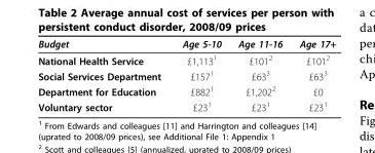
<table><thead><tr><td>Budget</td><td>Age 5-10</td><td>Age 11-16</td><td>Age 17+</td></tr></thead><tbody><tr><td>National Health Service</td><td>£1,113<sup>1</sup></td><td>£101<sup>2</sup></td><td>£101<sup>2</sup></td></tr><tr><td>Social Services Department</td><td>£157<sup>1</sup></td><td>£63<sup>3</sup></td><td>£63<sup>3</sup></td></tr><tr><td>Department for Education</td><td>£882<sup>1</sup></td><td>£1,202<sup>2</sup></td><td>£0</td></tr><tr><td>Voluntary sector</td><td>£23<sup>1</sup></td><td>£23<sup>1</sup></td><td>£23<sup>1</sup></td></tr></tbody></table>